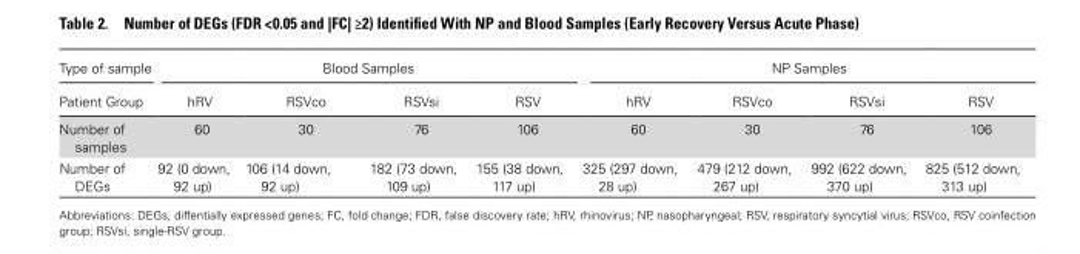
<table><thead><tr><td rowspan="2">Type of sample Patient Group</td><td colspan="4">Blood Samples</td><td colspan="4">NP Samples</td></tr><tr><td>hRV</td><td>RSVco</td><td>RSVsi</td><td>RSV</td><td>hRV</td><td>RSVco</td><td>RSVsi</td><td>RSV</td></tr></thead><tbody><tr><td>Number of samples</td><td>60</td><td>30</td><td>76</td><td>106</td><td>60</td><td>30</td><td>76</td><td>106</td></tr><tr><td>Number of DEGs</td><td>92 (0 down, 92 up)</td><td>106 (14 down, 92 up)</td><td>182 (73 down, 109 up)</td><td>155 (38 down, 117 up)</td><td>325 (297 down, 28 up)</td><td>479 (212 down, 267 up)</td><td>992 (622 down, 370 up)</td><td>825 (512 down, 313 up)</td></tr></tbody></table>